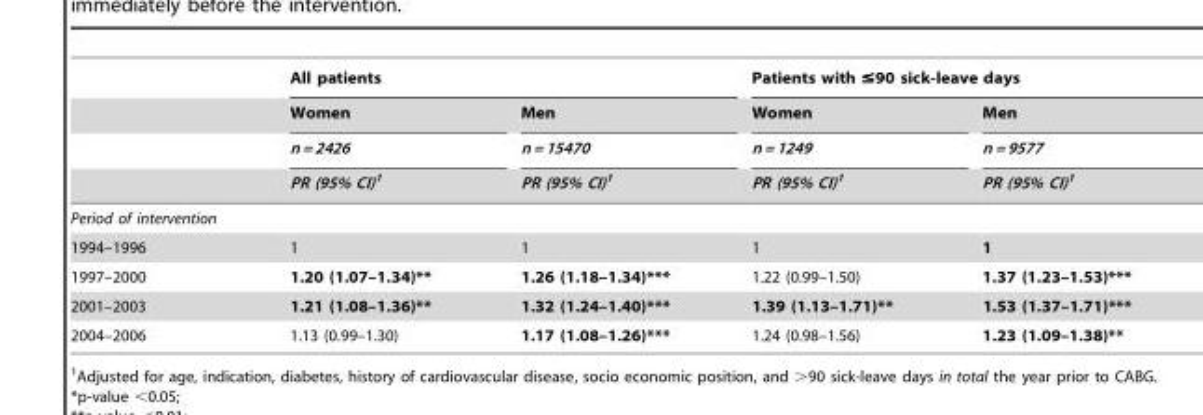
<table><thead><tr><td rowspan="4"></td><td colspan="2">All patients</td><td colspan="2">Patients with ≤90 sick-leave days</td></tr><tr><td rowspan="3">Women n = 2426 PR (95% CI)1</td><td rowspan="3">Men n = 15470 PR (95% CI)1</td><td rowspan="3">Women n = 1249 PR (95% CI)1</td><td rowspan="3">Men n = 9577 PR (95% CI)1</td></tr><tr></tr><tr></tr></thead><tbody><tr><td colspan="5">Period of intervention</td></tr><tr><td>1994–1996</td><td>1</td><td>1</td><td>1</td><td>1</td></tr><tr><td>1997–2000</td><td>1.20 (1.07–1.34)**</td><td>1.26 (1.18–1.34)***</td><td>1.22 (0.99–1.50)</td><td>1.37 (1.23–1.53)***</td></tr><tr><td>2001–2003</td><td>1.21 (1.08–1.36)**</td><td>1.32 (1.24–1.40)***</td><td>1.39 (1.13–1.71)**</td><td>1.53 (1.37–1.71)***</td></tr><tr><td>2004–2006</td><td>1.13 (0.99–1.30)</td><td>1.17 (1.08–1.26)***</td><td>1.24 (0.98–1.56)</td><td>1.23 (1.09–1.38)**</td></tr></tbody></table>